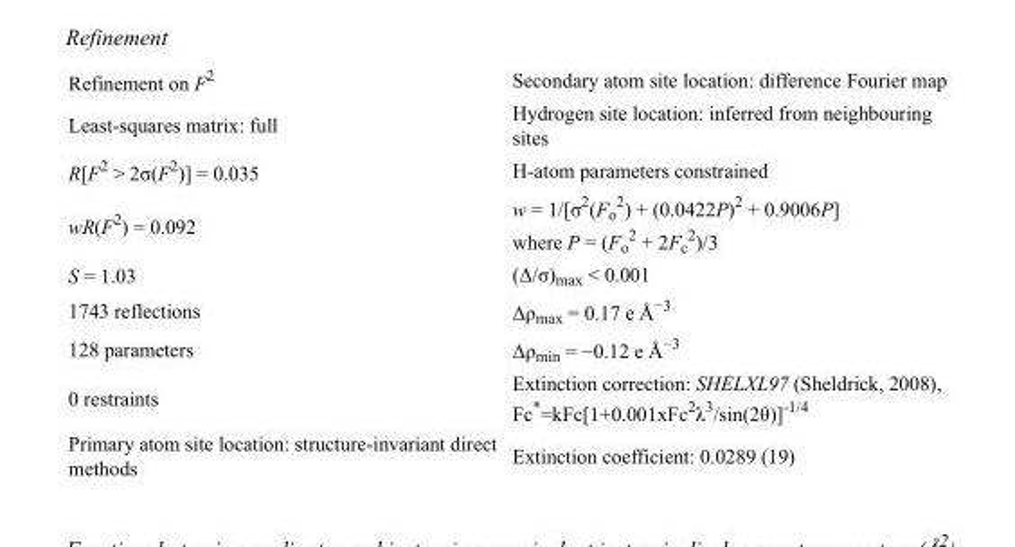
<table><tbody><tr><td>Refinement on F<sup>2</sup></td><td>Secondary atom site location: difference Fourier map</td></tr><tr><td>Least-squares matrix: full</td><td>Hydrogen site location: inferred from neighbouring sites</td></tr><tr><td>R[F<sup>2</sup> &gt; 2σ(F<sup>2</sup>)] = 0.035</td><td>H-atom parameters constrained</td></tr><tr><td>wR(F<sup>2</sup>) = 0.092</td><td>w = 1/[σ<sup>2</sup>(F<sub>o</sub> <sup>2</sup>) + (0.0422P)<sup>2</sup> + 0.9006P] where P = (F<sub>o</sub> <sup>2</sup> + 2F<sub>c</sub> <sup>2</sup>)/3</td></tr><tr><td>S = 1.03</td><td>(Δ/σ)<sub>max</sub> &lt; 0.001</td></tr><tr><td>1743 reflections</td><td>Δρ<sub>max</sub> = 0.17 e Å<sup>−3</sup></td></tr><tr><td>128 parameters</td><td>Δρ<sub>min</sub> = −0.12 e Å<sup>−3</sup></td></tr><tr><td>0 restraints</td><td>Extinction correction: SHELXL97 (Sheldrick, 2008), Fc*=kFc[1+0.001xFc<sup>2</sup>λ<sup>3</sup>/sin(2θ)]<sup>-1/4</sup></td></tr><tr><td>Primary atom site location: structure-invariant direct methods</td><td>Extinction coefficient: 0.0289 (19)</td></tr></tbody></table>